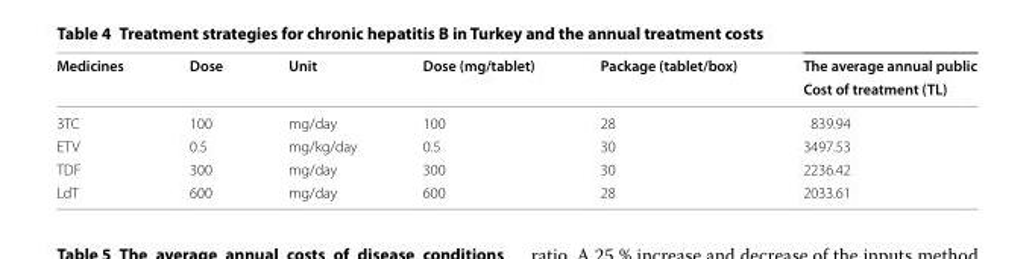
<table><thead><tr><td rowspan="2">Medicines</td><td rowspan="2">Dose</td><td rowspan="2">Unit</td><td rowspan="2">Dose (mg/tablet)</td><td rowspan="2">Package (tablet/box)</td><td rowspan="2">The average annual public Cost of treatment (TL)</td></tr><tr></tr></thead><tbody><tr><td>3TC</td><td>100</td><td>mg/day</td><td>100</td><td>28</td><td>839.94</td></tr><tr><td>ETV</td><td>0.5</td><td>mg/kg/day</td><td>0.5</td><td>30</td><td>3497.53</td></tr><tr><td>TDF</td><td>300</td><td>mg/day</td><td>300</td><td>30</td><td>2236.42</td></tr><tr><td>LdT</td><td>600</td><td>mg/day</td><td>600</td><td>28</td><td>2033.61</td></tr></tbody></table>